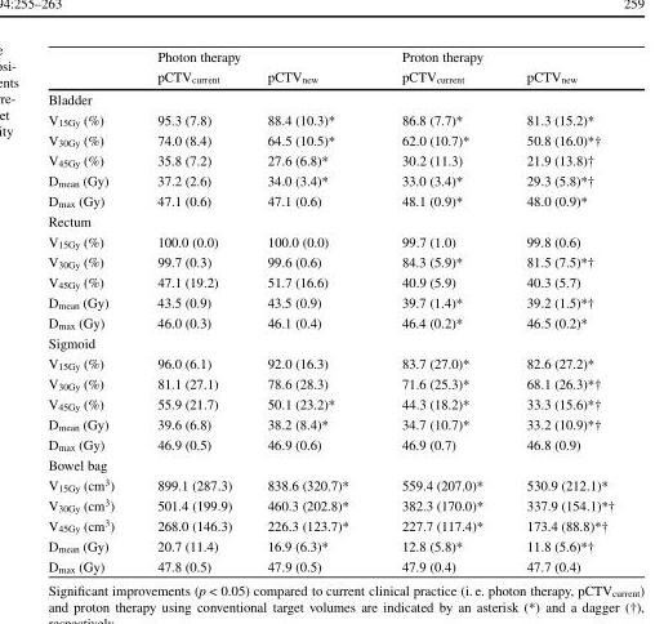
<table><thead><tr><td rowspan="2"></td><td colspan="2">Photon therapy</td><td colspan="2">Proton therapy</td></tr><tr><td>pCTV<sub>current</sub></td><td>pCTV<sub>new</sub></td><td>pCTV<sub>current</sub></td><td>pCTV<sub>new</sub></td></tr></thead><tbody><tr><td colspan="5">Bladder</td></tr><tr><td>V<sub>15Gy</sub> (%)</td><td>95.3 (7.8)</td><td>88.4 (10.3)*</td><td>86.8 (7.7)*</td><td>81.3 (15.2)*</td></tr><tr><td>V<sub>30Gy</sub> (%)</td><td>74.0 (8.4)</td><td>64.5 (10.5)*</td><td>62.0 (10.7)*</td><td>50.8 (16.0)*†</td></tr><tr><td>V<sub>45Gy</sub> (%)</td><td>35.8 (7.2)</td><td>27.6 (6.8)*</td><td>30.2 (11.3)</td><td>21.9 (13.8)†</td></tr><tr><td>D<sub>mean</sub> (Gy)</td><td>37.2 (2.6)</td><td>34.0 (3.4)*</td><td>33.0 (3.4)*</td><td>29.3 (5.8)*†</td></tr><tr><td>D<sub>max</sub> (Gy)</td><td>47.1 (0.6)</td><td>47.1 (0.6)</td><td>48.1 (0.9)*</td><td>48.0 (0.9)*</td></tr><tr><td colspan="5">Rectum</td></tr><tr><td>V<sub>15Gy</sub> (%)</td><td>100.0 (0.0)</td><td>100.0 (0.0)</td><td>99.7 (1.0)</td><td>99.8 (0.6)</td></tr><tr><td>V<sub>30Gy</sub> (%)</td><td>99.7 (0.3)</td><td>99.6 (0.6)</td><td>84.3 (5.9)*</td><td>81.5 (7.5)*†</td></tr><tr><td>V<sub>45Gy</sub> (%)</td><td>47.1 (19.2)</td><td>51.7 (16.6)</td><td>40.9 (5.9)</td><td>40.3 (5.7)</td></tr><tr><td>D<sub>mean</sub> (Gy)</td><td>43.5 (0.9)</td><td>43.5 (0.9)</td><td>39.7 (1.4)*</td><td>39.2 (1.5)*†</td></tr><tr><td>D<sub>max</sub> (Gy)</td><td>46.0 (0.3)</td><td>46.1 (0.4)</td><td>46.4 (0.2)*</td><td>46.5 (0.2)*</td></tr><tr><td colspan="5">Sigmoid</td></tr><tr><td>V<sub>15Gy</sub> (%)</td><td>96.0 (6.1)</td><td>92.0 (16.3)</td><td>83.7 (27.0)*</td><td>82.6 (27.2)*</td></tr><tr><td>V<sub>30Gy</sub> (%)</td><td>81.1 (27.1)</td><td>78.6 (28.3)</td><td>71.6 (25.3)*</td><td>68.1 (26.3)*†</td></tr><tr><td>V<sub>45Gy</sub> (%)</td><td>55.9 (21.7)</td><td>50.1 (23.2)*</td><td>44.3 (18.2)*</td><td>33.3 (15.6)*†</td></tr><tr><td>D<sub>mean</sub> (Gy)</td><td>39.6 (6.8)</td><td>38.2 (8.4)*</td><td>34.7 (10.7)*</td><td>33.2 (10.9)*†</td></tr><tr><td>D<sub>max</sub> (Gy)</td><td>46.9 (0.5)</td><td>46.9 (0.6)</td><td>46.9 (0.7)</td><td>46.8 (0.9)</td></tr><tr><td colspan="5">Bowel bag</td></tr><tr><td>V<sub>15Gy</sub> (cm<sup>3</sup>)</td><td>899.1 (287.3)</td><td>838.6 (320.7)*</td><td>559.4 (207.0)*</td><td>530.9 (212.1)*</td></tr><tr><td>V<sub>30Gy</sub> (cm<sup>3</sup>)</td><td>501.4 (199.9)</td><td>460.3 (202.8)*</td><td>382.3 (170.0)*</td><td>337.9 (154.1)*†</td></tr><tr><td>V<sub>45Gy</sub> (cm<sup>3</sup>)</td><td>268.0 (146.3)</td><td>226.3 (123.7)*</td><td>227.7 (117.4)*</td><td>173.4 (88.8)*†</td></tr><tr><td>D<sub>mean</sub> (Gy)</td><td>20.7 (11.4)</td><td>16.9 (6.3)*</td><td>12.8 (5.8)*</td><td>11.8 (5.6)*†</td></tr><tr><td>D<sub>max</sub> (Gy)</td><td>47.8 (0.5)</td><td>47.9 (0.5)</td><td>47.9 (0.4)</td><td>47.7 (0.4)</td></tr></tbody></table>